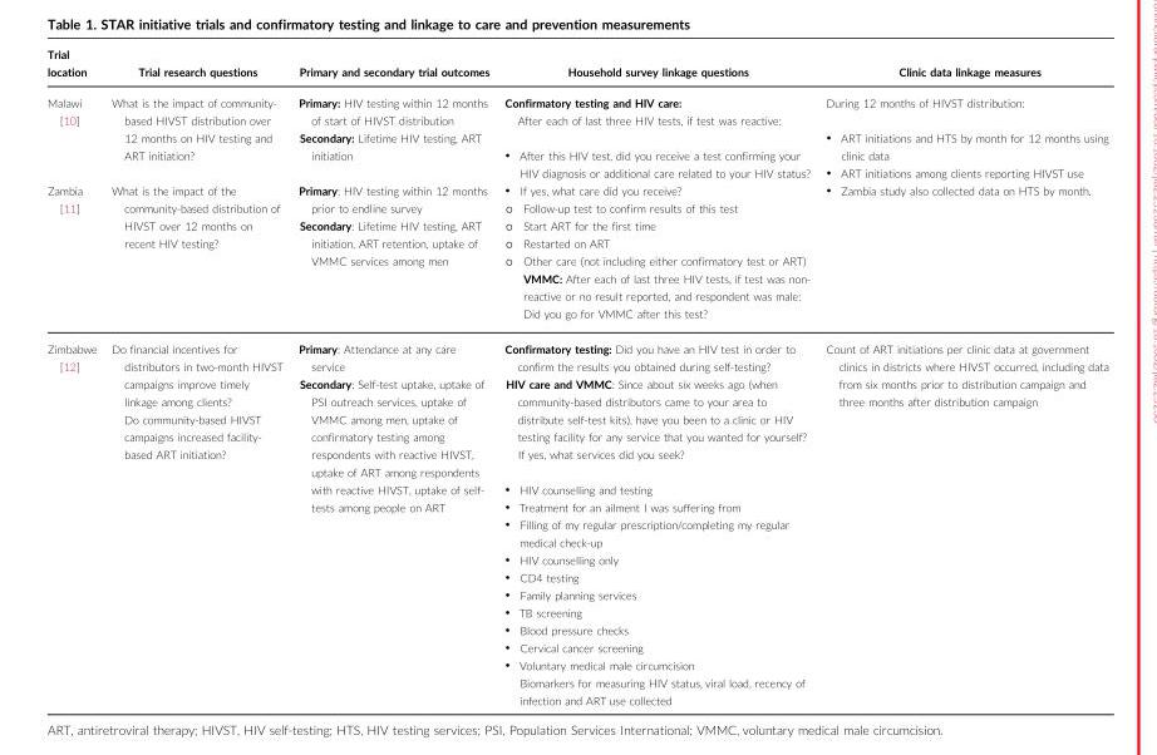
<table><thead><tr><td>Trial location</td><td>Trial research questions</td><td>Primary and secondary trial outcomes</td><td>Household survey linkage questions</td><td>Clinic data linkage measures</td></tr></thead><tbody><tr><td>Malawi [10]</td><td>What is the impact of community- based HIVST distribution over 12 months on HIV testing and ART initiation?</td><td>Primary: HIV testing within 12 months of start of HIVST distribution Secondary: Lifetime HIV testing, ART initiation</td><td rowspan="2">Confirmatory testing and HIV care: After each of last three HIV tests, if test was reactive: • After this HIV test, did you receive a test confirming your HIV diagnosis or additional care related to your HIV status? • If yes, what care did you receive? o Follow-up test to confirm results of this test o Start ART for the first time o Restarted on ART o Other care (not including either confirmatory test or ART) VMMC: After each of last three HIV tests, if test was non- reactive or no result reported, and respondent was male: Did you go for VMMC after this test?</td><td>During 12 months of HIVST distribution: • ART initiations and HTS by month for 12 months using clinic data • ART initiations among clients reporting HIVST use</td></tr><tr><td>Zambia [11]</td><td>What is the impact of the community-based distribution of HIVST over 12 months on recent HIV testing?</td><td>Primary: HIV testing within 12 months prior to endline survey Secondary: Lifetime HIV testing, ART initiation, ART retention, uptake of VMMC services among men</td><td>• Zambia study also collected data on HTS by month.</td></tr><tr><td>Zimbabwe [12]</td><td>Do financial incentives for distributors in two-month HIVST campaigns improve timely linkage among clients? Do community-based HIVST campaigns increased facility- based ART initiation?</td><td>Primary: Attendance at any care service Secondary: Self-test uptake, uptake of PSI outreach services, uptake of VMMC among men, uptake of confirmatory testing among respondents with reactive HIVST, uptake of ART among respondents with reactive HIVST, uptake of self- tests among people on ART</td><td>Confirmatory testing: Did you have an HIV test in order to confirm the results you obtained during self-testing? HIV care and VMMC: Since about six weeks ago (when community-based distributors came to your area to distribute self-test kits), have you been to a clinic or HIV testing facility for any service that you wanted for yourself? If yes, what services did you seek? • HIV counselling and testing • Treatment for an ailment I was suffering from • Filling of my regular prescription/completing my regular medical check-up • HIV counselling only • CD4 testing • Family planning services • TB screening • Blood pressure checks • Cervical cancer screening • Voluntary medical male circumcision Biomarkers for measuring HIV status, viral load, recency of infection and ART use collected</td><td>Count of ART initiations per clinic data at government clinics in districts where HIVST occurred, including data from six months prior to distribution campaign and three months after distribution campaign</td></tr></tbody></table>